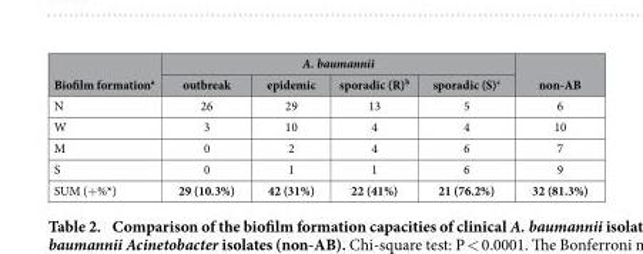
<table><thead><tr><td rowspan="2">Biofilm formation<sup>a</sup></td><td colspan="4">A. baumannii</td><td rowspan="2">non-AB</td></tr><tr><td>outbreak</td><td>epidemic</td><td>sporadic (R)<sup>b</sup></td><td>sporadic (S)<sup>c</sup></td></tr></thead><tbody><tr><td>N</td><td>26</td><td>29</td><td>13</td><td>5</td><td>6</td></tr><tr><td>W</td><td>3</td><td>10</td><td>4</td><td>4</td><td>10</td></tr><tr><td>M</td><td>0</td><td>2</td><td>4</td><td>6</td><td>7</td></tr><tr><td>S</td><td>0</td><td>1</td><td>1</td><td>6</td><td>9</td></tr><tr><td>SUM (+ %*)</td><td>29 (10.3%)</td><td>42 (31%)</td><td>22 (41%)</td><td>21 (76.2%)</td><td>32 (81.3%)</td></tr></tbody></table>